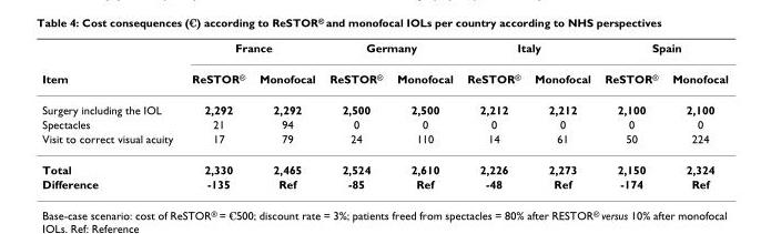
<table><thead><tr><td rowspan="2">Item</td><td colspan="2">France</td><td colspan="2">Germany</td><td colspan="2">Italy</td><td colspan="2">Spain</td></tr><tr><td>ReSTOR<sup>®</sup></td><td>Monofocal</td><td>ReSTOR<sup>®</sup></td><td>Monofocal</td><td>ReSTOR<sup>®</sup></td><td>Monofocal</td><td>ReSTOR<sup>®</sup></td><td>Monofocal</td></tr></thead><tbody><tr><td>Surgery including the IOL</td><td>2,292</td><td>2,292</td><td>2,500</td><td>2,500</td><td>2,212</td><td>2,212</td><td>2,100</td><td>2,100</td></tr><tr><td>Spectacles</td><td>21</td><td>94</td><td>0</td><td>0</td><td>0</td><td>0</td><td>0</td><td>0</td></tr><tr><td>Visit to correct visual acuity</td><td>17</td><td>79</td><td>24</td><td>110</td><td>14</td><td>61</td><td>50</td><td>224</td></tr><tr><td>Total</td><td>2,330</td><td>2,465</td><td>2,524</td><td>2,610</td><td>2,226</td><td>2,273</td><td>2,150</td><td>2,324</td></tr><tr><td>Difference</td><td>-135</td><td>Ref</td><td>-85</td><td>Ref</td><td>-48</td><td>Ref</td><td>-174</td><td>Ref</td></tr></tbody></table>